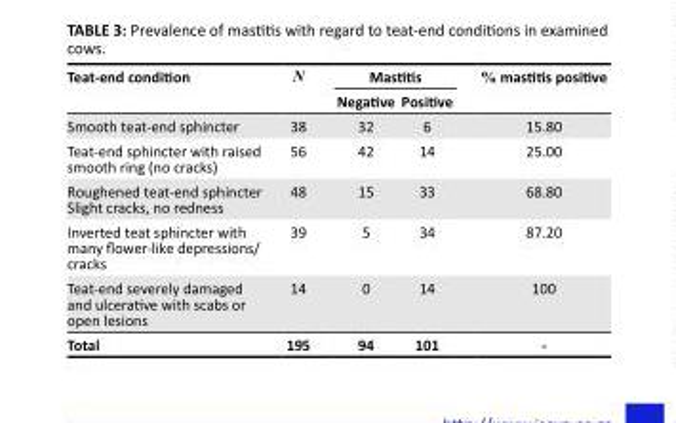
<table><thead><tr><td rowspan="2">Teat-end condition</td><td rowspan="2">N</td><td colspan="2">Mastitis</td><td rowspan="2">% mastitis positive</td></tr><tr><td>Negative</td><td>Positive</td></tr></thead><tbody><tr><td>Smooth teat-end sphincter</td><td>38</td><td>32</td><td>6</td><td>15.80</td></tr><tr><td>Teat-end sphincter with raised smooth ring (no cracks)</td><td>56</td><td>42</td><td>14</td><td>25.00</td></tr><tr><td>Roughened teat-end sphincter Slight cracks, no redness</td><td>48</td><td>15</td><td>33</td><td>68.80</td></tr><tr><td>Inverted teat sphincter with many flower-like depressions/ cracks</td><td>39</td><td>5</td><td>34</td><td>87.20</td></tr><tr><td>Teat-end severely damaged and ulcerative with scabs or open lesions</td><td>14</td><td>0</td><td>14</td><td>100</td></tr><tr><td>Total</td><td>195</td><td>94</td><td>101</td><td>-</td></tr></tbody></table>